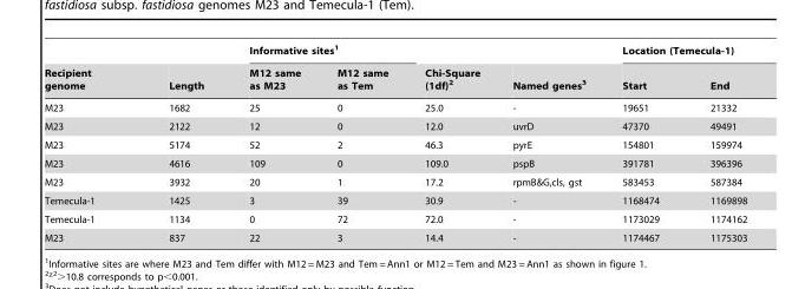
<table><thead><tr><td rowspan="2">Recipient genome</td><td rowspan="2">Length</td><td colspan="2">Informative sites<sup>1</sup></td><td rowspan="2">Chi-Square (1df)<sup>2</sup></td><td rowspan="2">Named genes<sup>3</sup></td><td colspan="2">Location (Temecula-1)</td></tr><tr><td>M12 same as M23</td><td>M12 same as Tem</td><td>Start</td><td>End</td></tr></thead><tbody><tr><td>M23</td><td>1682</td><td>25</td><td>0</td><td>25.0</td><td>-</td><td>19651</td><td>21332</td></tr><tr><td>M23</td><td>2122</td><td>12</td><td>0</td><td>12.0</td><td>uvrD</td><td>47370</td><td>49491</td></tr><tr><td>M23</td><td>5174</td><td>52</td><td>2</td><td>46.3</td><td>pyrE</td><td>154801</td><td>159974</td></tr><tr><td>M23</td><td>4616</td><td>109</td><td>0</td><td>109.0</td><td>pspB</td><td>391781</td><td>396396</td></tr><tr><td>M23</td><td>3932</td><td>20</td><td>1</td><td>17.2</td><td>rpmB&amp;G,cls, gst</td><td>583453</td><td>587384</td></tr><tr><td>Temecula-1</td><td>1425</td><td>3</td><td>39</td><td>30.9</td><td>-</td><td>1168474</td><td>1169898</td></tr><tr><td>Temecula-1</td><td>1134</td><td>0</td><td>72</td><td>72.0</td><td>-</td><td>1173029</td><td>1174162</td></tr><tr><td>M23</td><td>837</td><td>22</td><td>3</td><td>14.4</td><td>-</td><td>1174467</td><td>1175303</td></tr></tbody></table>